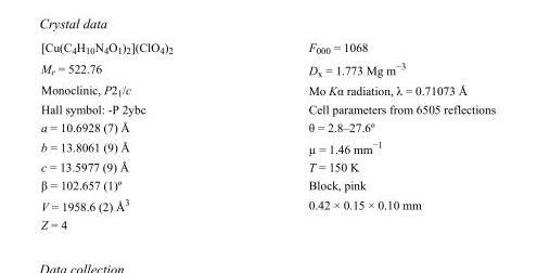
<table><tbody><tr><td>[Cu(C4H10N4O1)2](ClO4)2</td><td>F000 = 1068</td></tr><tr><td>M<sub>r</sub> = 522.76</td><td>D<sub>x</sub> = 1.773 Mg m<sup>−3</sup></td></tr><tr><td>Monoclinic, P2<sub>1</sub>/c</td><td>Mo Kα radiation, λ = 0.71073 Å</td></tr><tr><td>Hall symbol: -P 2ybc</td><td>Cell parameters from 6505 reflections</td></tr><tr><td>a = 10.6928 (7) Å</td><td>θ = 2.8–27.6º</td></tr><tr><td>b = 13.8061 (9) Å</td><td>µ = 1.46 mm<sup>−1</sup></td></tr><tr><td>c = 13.5977 (9) Å</td><td>T = 150 K</td></tr><tr><td>β = 102.657 (1)º</td><td>Block, pink</td></tr><tr><td>V = 1958.6 (2) Å<sup>3</sup></td><td>0.42 × 0.15 × 0.10 mm</td></tr><tr><td>Z = 4</td><td></td></tr></tbody></table>